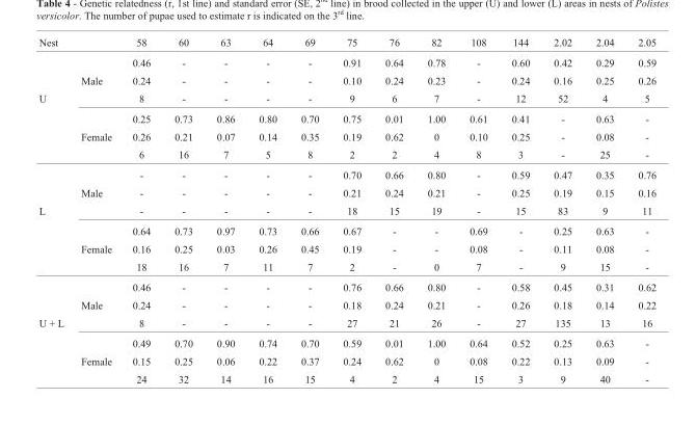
<table><thead><tr><td>Nest</td><td></td><td>58</td><td>60</td><td>63</td><td>64</td><td>69</td><td>75</td><td>76</td><td>82</td><td>108</td><td>144</td><td>2.02</td><td>2.04</td><td>2.05</td></tr></thead><tbody><tr><td></td><td></td><td>0.46</td><td>-</td><td>-</td><td>-</td><td>-</td><td>0.91</td><td>0.64</td><td>0.78</td><td>-</td><td>0.60</td><td>0.42</td><td>0.29</td><td>0.59</td></tr><tr><td></td><td>Male</td><td>0.24</td><td>-</td><td>-</td><td>-</td><td>-</td><td>0.10</td><td>0.24</td><td>0.23</td><td>-</td><td>0.24</td><td>0.16</td><td>0.25</td><td>0.26</td></tr><tr><td rowspan="6">U</td><td></td><td>8</td><td>-</td><td>-</td><td>-</td><td>-</td><td>9</td><td>6</td><td>7</td><td>-</td><td>12</td><td>52</td><td>4</td><td>5</td></tr><tr><td></td><td>0.25</td><td>0.73</td><td>0.86</td><td>0.80</td><td>0.70</td><td>0.75</td><td>0.01</td><td>1.00</td><td>0.61</td><td>0.41</td><td>-</td><td>0.63</td><td>-</td></tr><tr><td>Female</td><td>0.26</td><td>0.21</td><td>0.07</td><td>0.14</td><td>0.35</td><td>0.19</td><td>0.62</td><td>0</td><td>0.10</td><td>0.25</td><td>-</td><td>0.08</td><td>-</td></tr><tr><td></td><td>6</td><td>16</td><td>7</td><td>5</td><td>8</td><td>2</td><td>2</td><td>4</td><td>8</td><td>3</td><td>-</td><td>25</td><td>-</td></tr><tr><td></td><td>-</td><td>-</td><td>-</td><td>-</td><td>-</td><td>0.70</td><td>0.66</td><td>0.80</td><td>-</td><td>0.59</td><td>0.47</td><td>0.35</td><td>0.76</td></tr><tr><td>Male</td><td>-</td><td>-</td><td>-</td><td>-</td><td>-</td><td>0.21</td><td>0.24</td><td>0.21</td><td>-</td><td>0.25</td><td>0.19</td><td>0.15</td><td>0.16</td></tr><tr><td rowspan="6">L</td><td></td><td>-</td><td>-</td><td>-</td><td>-</td><td>-</td><td>18</td><td>15</td><td>19</td><td>-</td><td>15</td><td>83</td><td>9</td><td>11</td></tr><tr><td></td><td>0.64</td><td>0.73</td><td>0.97</td><td>0.73</td><td>0.66</td><td>0.67</td><td>-</td><td>-</td><td>0.69</td><td>-</td><td>0.25</td><td>0.63</td><td>-</td></tr><tr><td>Female</td><td>0.16</td><td>0.25</td><td>0.03</td><td>0.26</td><td>0.45</td><td>0.19</td><td>-</td><td>-</td><td>0.08</td><td>-</td><td>0.11</td><td>0.08</td><td>-</td></tr><tr><td></td><td>18</td><td>16</td><td>7</td><td>11</td><td>7</td><td>2</td><td>-</td><td>0</td><td>7</td><td>-</td><td>9</td><td>15</td><td>-</td></tr><tr><td></td><td>0.46</td><td>-</td><td>-</td><td>-</td><td>-</td><td>0.76</td><td>0.66</td><td>0.80</td><td>-</td><td>0.58</td><td>0.45</td><td>0.31</td><td>0.62</td></tr><tr><td>Male</td><td>0.24</td><td>-</td><td>-</td><td>-</td><td>-</td><td>0.18</td><td>0.24</td><td>0.21</td><td>-</td><td>0.26</td><td>0.18</td><td>0.14</td><td>0.22</td></tr><tr><td rowspan="4">U + L</td><td></td><td>8</td><td>-</td><td>-</td><td>-</td><td>-</td><td>27</td><td>21</td><td>26</td><td>-</td><td>27</td><td>135</td><td>13</td><td>16</td></tr><tr><td></td><td>0.49</td><td>0.70</td><td>0.90</td><td>0.74</td><td>0.70</td><td>0.59</td><td>0.01</td><td>1.00</td><td>0.64</td><td>0.52</td><td>0.25</td><td>0.63</td><td>-</td></tr><tr><td>Female</td><td>0.15</td><td>0.25</td><td>0.06</td><td>0.22</td><td>0.37</td><td>0.24</td><td>0.62</td><td>0</td><td>0.08</td><td>0.22</td><td>0.13</td><td>0.09</td><td>-</td></tr><tr><td></td><td>24</td><td>32</td><td>14</td><td>16</td><td>15</td><td>4</td><td>2</td><td>4</td><td>15</td><td>3</td><td>9</td><td>40</td><td>-</td></tr></tbody></table>